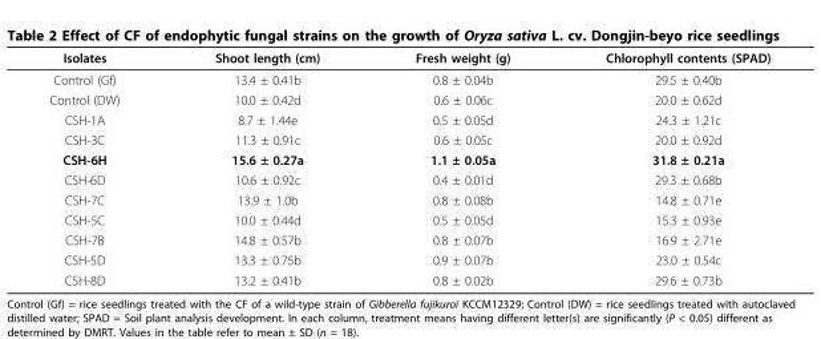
<table><thead><tr><td>Isolates</td><td>Shoot length (cm)</td><td>Fresh weight (g)</td><td>Chlorophyll contents (SPAD)</td></tr></thead><tbody><tr><td>Control (Gf)</td><td>13.4 ± 0.41b</td><td>0.8 ± 0.04b</td><td>29.5 ± 0.40b</td></tr><tr><td>Control (DW)</td><td>10.0 ± 0.42d</td><td>0.6 ± 0.06c</td><td>20.0 ± 0.62d</td></tr><tr><td>CSH-1A</td><td>8.7 ± 1.44e</td><td>0.5 ± 0.05d</td><td>24.3 ± 1.21c</td></tr><tr><td>CSH-3C</td><td>11.3 ± 0.91c</td><td>0.6 ± 0.05c</td><td>20.0 ± 0.92d</td></tr><tr><td>CSH-6H</td><td>15.6 ± 0.27a</td><td>1.1 ± 0.05a</td><td>31.8 ± 0.21a</td></tr><tr><td>CSH-6D</td><td>10.6 ± 0.92c</td><td>0.4 ± 0.01d</td><td>29.3 ± 0.68b</td></tr><tr><td>CSH-7C</td><td>13.9 ± 1.0b</td><td>0.8 ± 0.08b</td><td>14.8 ± 0.71e</td></tr><tr><td>CSH-5C</td><td>10.0 ± 0.44d</td><td>0.5 ± 0.05d</td><td>15.3 ± 0.93e</td></tr><tr><td>CSH-7B</td><td>14.8 ± 0.57b</td><td>0.8 ± 0.07b</td><td>16.9 ± 2.71e</td></tr><tr><td>CSH-5D</td><td>13.3 ± 0.75b</td><td>0.9 ± 0.07b</td><td>23.0 ± 0.54c</td></tr><tr><td>CSH-8D</td><td>13.2 ± 0.41b</td><td>0.8 ± 0.02b</td><td>29.6 ± 0.73b</td></tr></tbody></table>